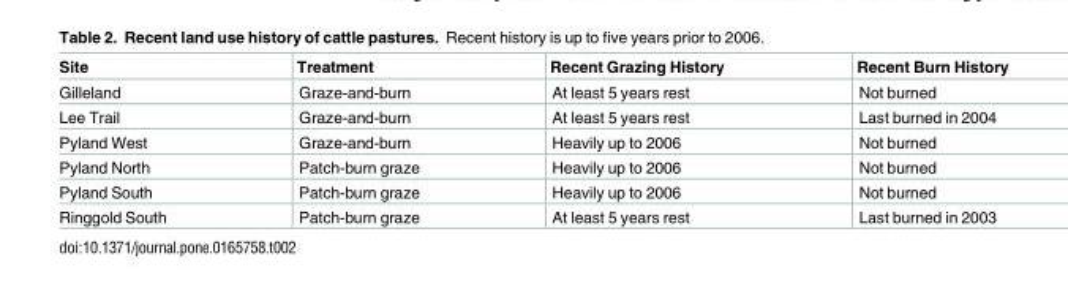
<table><thead><tr><td>Site</td><td>Treatment</td><td>Recent Grazing History</td><td>Recent Burn History</td></tr></thead><tbody><tr><td>Gilleland</td><td>Graze-and-burn</td><td>At least 5 years rest</td><td>Not burned</td></tr><tr><td>Lee Trail</td><td>Graze-and-burn</td><td>At least 5 years rest</td><td>Last burned in 2004</td></tr><tr><td>Pyland West</td><td>Graze-and-burn</td><td>Heavily up to 2006</td><td>Not burned</td></tr><tr><td>Pyland North</td><td>Patch-burn graze</td><td>Heavily up to 2006</td><td>Not burned</td></tr><tr><td>Pyland South</td><td>Patch-burn graze</td><td>Heavily up to 2006</td><td>Not burned</td></tr><tr><td>Ringgold South</td><td>Patch-burn graze</td><td>At least 5 years rest</td><td>Last burned in 2003</td></tr></tbody></table>